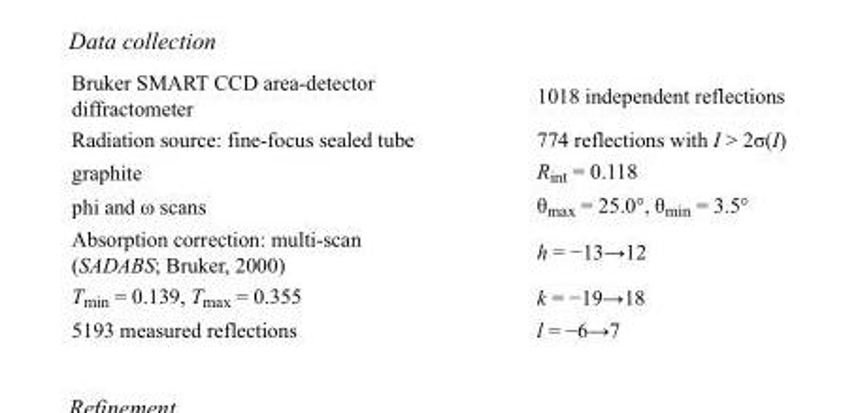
<table><tbody><tr><td>Bruker SMART CCD area-detector diffractometer</td><td>1018 independent reflections</td></tr><tr><td>Radiation source: fine-focus sealed tube</td><td>774 reflections with I &gt; 2σ(I)</td></tr><tr><td>graphite</td><td>R<sub>int</sub> = 0.118</td></tr><tr><td>phi and ω scans</td><td>θ<sub>max</sub> = 25.0°, θ<sub>min</sub> = 3.5°</td></tr><tr><td>Absorption correction: multi-scan (SADABS; Bruker, 2000)</td><td>h = −13→12</td></tr><tr><td>T<sub>min</sub> = 0.139, T<sub>max</sub> = 0.355</td><td>k = −19→18</td></tr><tr><td>5193 measured reflections</td><td>l = −6→7</td></tr></tbody></table>